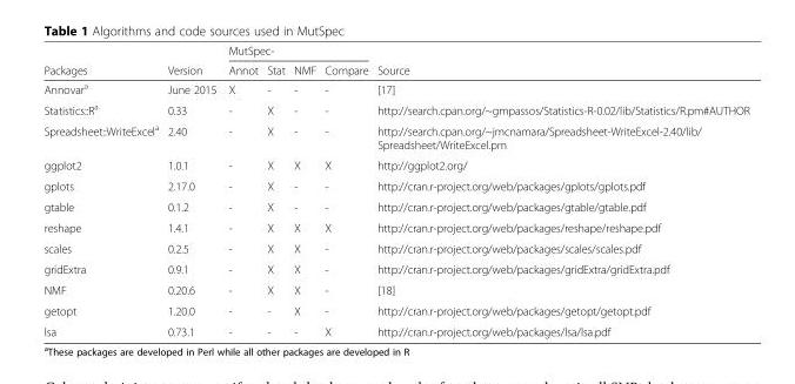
<table><thead><tr><td rowspan="2">Packages</td><td rowspan="2">Version</td><td colspan="4">MutSpec-</td><td rowspan="2">Source</td></tr><tr><td>Annot</td><td>Stat</td><td>NMF</td><td>Compare</td></tr></thead><tbody><tr><td>Annovar<sup>a</sup></td><td>June 2015</td><td>X</td><td>-</td><td>-</td><td>-</td><td>[17]</td></tr><tr><td>Statistics::R<sup>a</sup></td><td>0.33</td><td>-</td><td>X</td><td>-</td><td>-</td><td>http://search.cpan.org/~gmpassos/Statistics-R-0.02/lib/Statistics/R.pm#AUTHOR</td></tr><tr><td>Spreadsheet::WriteExcel<sup>a</sup></td><td>2.40</td><td>-</td><td>X</td><td>-</td><td>-</td><td>http://search.cpan.org/~jmcnamara/Spreadsheet-WriteExcel-2.40/lib/ Spreadsheet/WriteExcel.pm</td></tr><tr><td>ggplot2</td><td>1.0.1</td><td>-</td><td>X</td><td>X</td><td>X</td><td>http://ggplot2.org/</td></tr><tr><td>gplots</td><td>2.17.0</td><td>-</td><td>X</td><td>-</td><td>-</td><td>http://cran.r-project.org/web/packages/gplots/gplots.pdf</td></tr><tr><td>gtable</td><td>0.1.2</td><td>-</td><td>X</td><td>-</td><td>-</td><td>http://cran.r-project.org/web/packages/gtable/gtable.pdf</td></tr><tr><td>reshape</td><td>1.4.1</td><td>-</td><td>X</td><td>X</td><td>X</td><td>http://cran.r-project.org/web/packages/reshape/reshape.pdf</td></tr><tr><td>scales</td><td>0.2.5</td><td>-</td><td>X</td><td>X</td><td>-</td><td>http://cran.r-project.org/web/packages/scales/scales.pdf</td></tr><tr><td>gridExtra</td><td>0.9.1</td><td>-</td><td>X</td><td>X</td><td>-</td><td>http://cran.r-project.org/web/packages/gridExtra/gridExtra.pdf</td></tr><tr><td>NMF</td><td>0.20.6</td><td>-</td><td>X</td><td>X</td><td>-</td><td>[18]</td></tr><tr><td>getopt</td><td>1.20.0</td><td>-</td><td>-</td><td>X</td><td>-</td><td>http://cran.r-project.org/web/packages/getopt/getopt.pdf</td></tr><tr><td>lsa</td><td>0.73.1</td><td>-</td><td>-</td><td>-</td><td>X</td><td>http://cran.r-project.org/web/packages/lsa/lsa.pdf</td></tr></tbody></table>